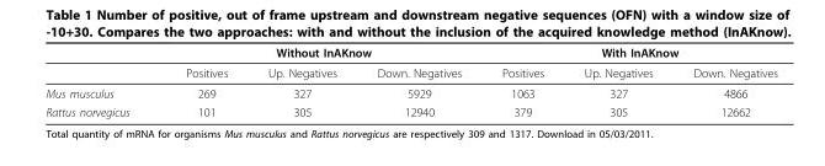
<table><thead><tr><td rowspan="2"></td><td colspan="3">Without InAKnow</td><td colspan="3">With InAKnow</td></tr><tr><td>Positives</td><td>Up. Negatives</td><td>Down. Negatives</td><td>Positives</td><td>Up. Negatives</td><td>Down. Negatives</td></tr></thead><tbody><tr><td>Mus musculus</td><td>269</td><td>327</td><td>5929</td><td>1063</td><td>327</td><td>4866</td></tr><tr><td>Rattus norvegicus</td><td>101</td><td>305</td><td>12940</td><td>379</td><td>305</td><td>12662</td></tr></tbody></table>